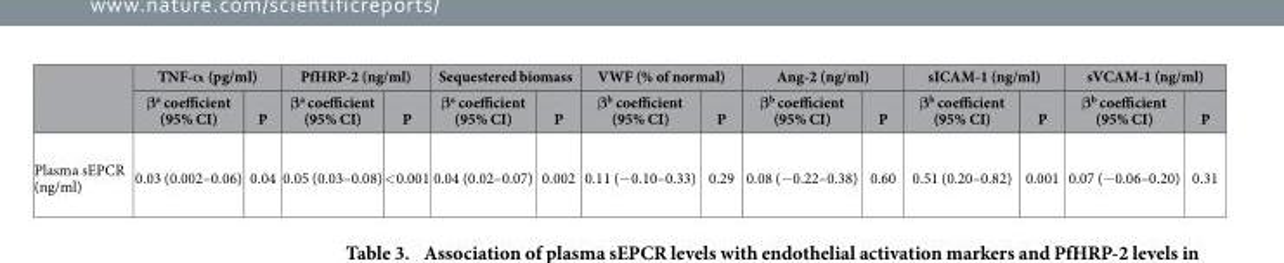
<table><thead><tr><td rowspan="2"></td><td colspan="2">TNF-α (pg/ml)</td><td colspan="2">PfHRP-2 (ng/ml)</td><td colspan="2">Sequestered biomass</td><td colspan="2">VWF (% of normal)</td><td colspan="2">Ang-2 (ng/ml)</td><td colspan="2">sICAM-1 (ng/ml)</td><td colspan="2">sVCAM-1 (ng/ml)</td></tr><tr><td>β<sup>a</sup> coefficient (95% CI)</td><td>P</td><td>β<sup>a</sup> coefficient (95% CI)</td><td>P</td><td>β<sup>a</sup> coefficient (95% CI)</td><td>P</td><td>β<sup>b</sup> coefficient (95% CI)</td><td>P</td><td>β<sup>b</sup> coefficient (95% CI)</td><td>P</td><td>β<sup>b</sup> coefficient (95% CI)</td><td>P</td><td>β<sup>b</sup> coefficient (95% CI)</td><td>P</td></tr></thead><tbody><tr><td>Plasma sEPCR (ng/ml)</td><td>0.03 (0.002–0.06)</td><td>0.04</td><td>0.05 (0.03–0.08)&lt;</td><td>0.001</td><td>0.04 (0.02–0.07)</td><td>0.002</td><td>0.11 (− 0.10–0.33)</td><td>0.29</td><td>0.08 (− 0.22–0.38)</td><td>0.60</td><td>0.51 (0.20–0.82)</td><td>0.001</td><td>0.07 (− 0.06–0.20)</td><td>0.31</td></tr></tbody></table>